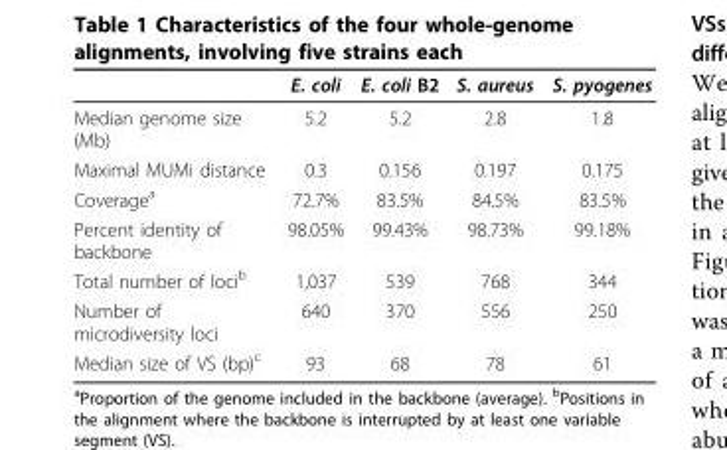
<table><thead><tr><td></td><td>E. coli</td><td>E. coli B2</td><td>S. aureus</td><td>S. pyogenes</td></tr></thead><tbody><tr><td>Median genome size (Mb)</td><td>5.2</td><td>5.2</td><td>2.8</td><td>1.8</td></tr><tr><td>Maximal MUMi distance</td><td>0.3</td><td>0.156</td><td>0.197</td><td>0.175</td></tr><tr><td>Coverage<sup>a</sup></td><td>72.7%</td><td>83.5%</td><td>84.5%</td><td>83.5%</td></tr><tr><td>Percent identity of backbone</td><td>98.05%</td><td>99.43%</td><td>98.73%</td><td>99.18%</td></tr><tr><td>Total number of loci<sup>b</sup></td><td>1,037</td><td>539</td><td>768</td><td>344</td></tr><tr><td>Number of microdiversity loci</td><td>640</td><td>370</td><td>556</td><td>250</td></tr><tr><td>Median size of VS (bp)<sup>c</sup></td><td>93</td><td>68</td><td>78</td><td>61</td></tr></tbody></table>